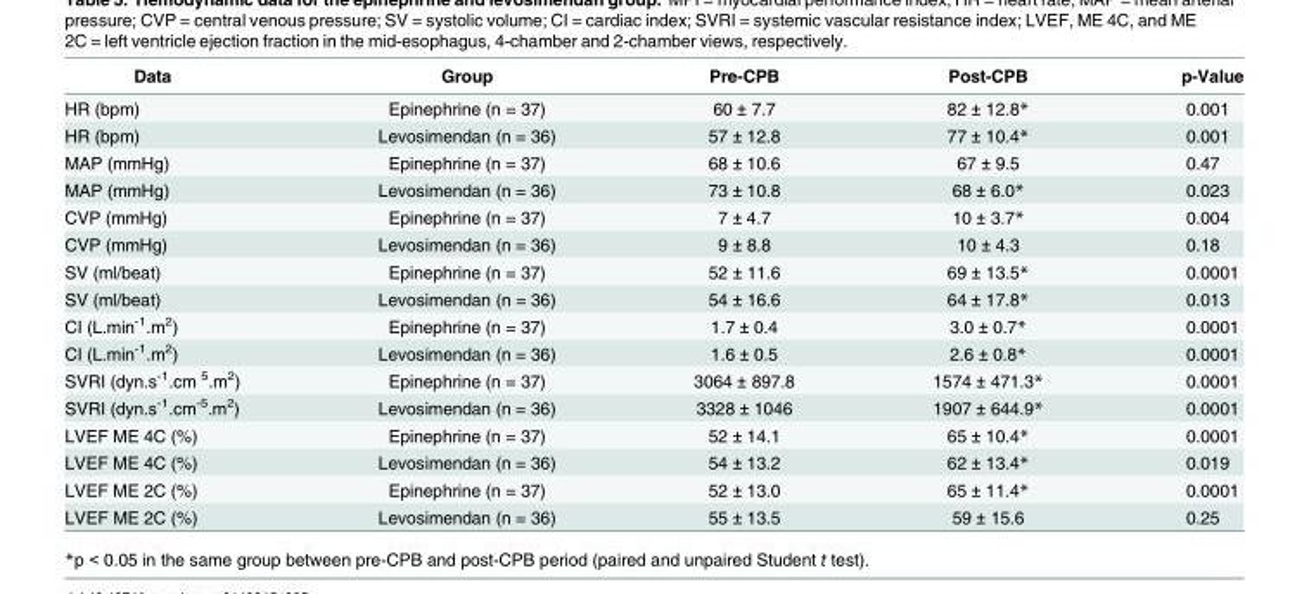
<table><thead><tr><td>Data</td><td>Group</td><td>Pre-CPB</td><td>Post-CPB</td><td>p-Value</td></tr></thead><tbody><tr><td>HR (bpm)</td><td>Epinephrine (n = 37)</td><td>60 ± 7.7</td><td>82 ± 12.8*</td><td>0.001</td></tr><tr><td>HR (bpm)</td><td>Levosimendan (n = 36)</td><td>57 ± 12.8</td><td>77 ± 10.4*</td><td>0.001</td></tr><tr><td>MAP (mmHg)</td><td>Epinephrine (n = 37)</td><td>68 ± 10.6</td><td>67 ± 9.5</td><td>0.47</td></tr><tr><td>MAP (mmHg)</td><td>Levosimendan (n = 36)</td><td>73 ± 10.8</td><td>68 ± 6.0*</td><td>0.023</td></tr><tr><td>CVP (mmHg)</td><td>Epinephrine (n = 37)</td><td>7 ± 4.7</td><td>10 ± 3.7*</td><td>0.004</td></tr><tr><td>CVP (mmHg)</td><td>Levosimendan (n = 36)</td><td>9 ± 8.8</td><td>10 ± 4.3</td><td>0.18</td></tr><tr><td>SV (ml/beat)</td><td>Epinephrine (n = 37)</td><td>52 ± 11.6</td><td>69 ± 13.5*</td><td>0.0001</td></tr><tr><td>SV (ml/beat)</td><td>Levosimendan (n = 36)</td><td>54 ± 16.6</td><td>64 ± 17.8*</td><td>0.013</td></tr><tr><td>CI (L.min<sup>-1</sup>.m<sup>2</sup>)</td><td>Epinephrine (n = 37)</td><td>1.7 ± 0.4</td><td>3.0 ± 0.7*</td><td>0.0001</td></tr><tr><td>CI (L.min<sup>-1</sup>.m<sup>2</sup>)</td><td>Levosimendan (n = 36)</td><td>1.6 ± 0.5</td><td>2.6 ± 0.8*</td><td>0.0001</td></tr><tr><td>SVRI (dyn.s<sup>-1</sup>.cm <sup>5</sup>.m<sup>2</sup>)</td><td>Epinephrine (n = 37)</td><td>3064 ± 897.8</td><td>1574 ± 471.3*</td><td>0.0001</td></tr><tr><td>SVRI (dyn.s<sup>-1</sup>.cm<sup>-5</sup>.m<sup>2</sup>)</td><td>Levosimendan (n = 36)</td><td>3328 ± 1046</td><td>1907 ± 644.9*</td><td>0.0001</td></tr><tr><td>LVEF ME 4C (%)</td><td>Epinephrine (n = 37)</td><td>52 ± 14.1</td><td>65 ± 10.4*</td><td>0.0001</td></tr><tr><td>LVEF ME 4C (%)</td><td>Levosimendan (n = 36)</td><td>54 ± 13.2</td><td>62 ± 13.4*</td><td>0.019</td></tr><tr><td>LVEF ME 2C (%)</td><td>Epinephrine (n = 37)</td><td>52 ± 13.0</td><td>65 ± 11.4*</td><td>0.0001</td></tr><tr><td>LVEF ME 2C (%)</td><td>Levosimendan (n = 36)</td><td>55 ± 13.5</td><td>59 ± 15.6</td><td>0.25</td></tr></tbody></table>